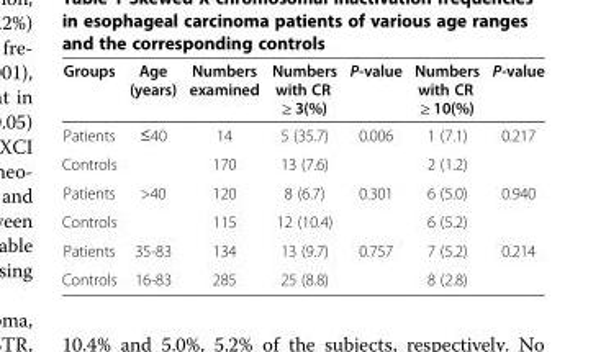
<table><thead><tr><td>Groups</td><td>Age (years)</td><td>Numbers examined</td><td>Numbers with CR ≥ 3(%)</td><td>P-value</td><td>Numbers with CR ≥ 10(%)</td><td>P-value</td></tr></thead><tbody><tr><td>Patients</td><td rowspan="2">≤40</td><td>14</td><td>5 (35.7)</td><td rowspan="2">0.006</td><td>1 (7.1)</td><td rowspan="2">0.217</td></tr><tr><td>Controls</td><td>170</td><td>13 (7.6)</td><td>2 (1.2)</td></tr><tr><td>Patients</td><td rowspan="2">&gt;40</td><td>120</td><td>8 (6.7)</td><td rowspan="2">0.301</td><td>6 (5.0)</td><td rowspan="2">0.940</td></tr><tr><td>Controls</td><td>115</td><td>12 (10.4)</td><td>6 (5.2)</td></tr><tr><td>Patients</td><td>35-83</td><td>134</td><td>13 (9.7)</td><td rowspan="2">0.757</td><td>7 (5.2)</td><td rowspan="2">0.214</td></tr><tr><td>Controls</td><td>16-83</td><td>285</td><td>25 (8.8)</td><td>8 (2.8)</td></tr></tbody></table>